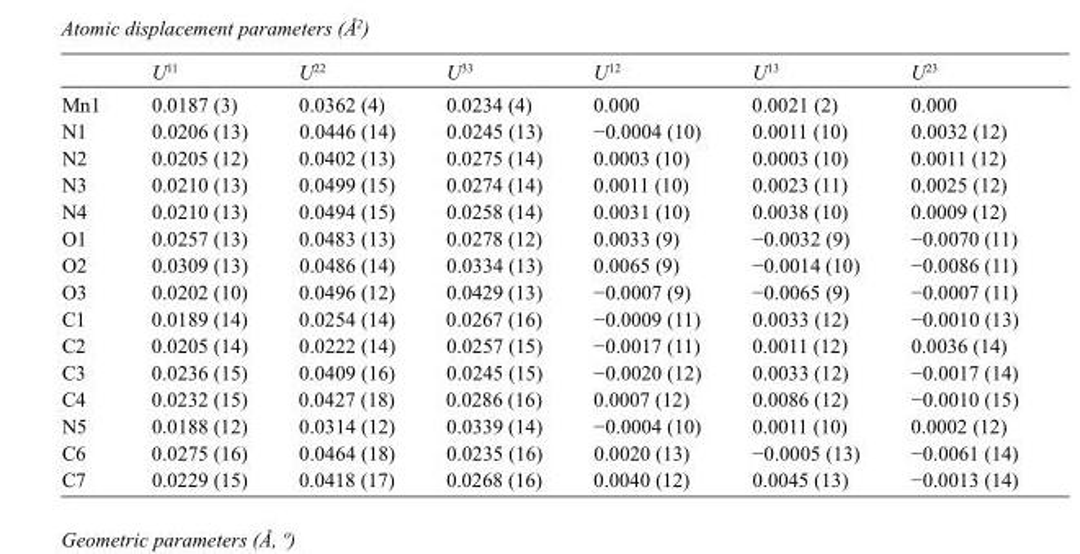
<table><thead><tr><td></td><td>U<sup>11</sup></td><td>U<sup>22</sup></td><td>U<sup>33</sup></td><td>U<sup>12</sup></td><td>U<sup>13</sup></td><td>U<sup>23</sup></td></tr></thead><tbody><tr><td>Mn1</td><td>0.0187 (3)</td><td>0.0362 (4)</td><td>0.0234 (4)</td><td>0.000</td><td>0.0021 (2)</td><td>0.000</td></tr><tr><td>N1</td><td>0.0206 (13)</td><td>0.0446 (14)</td><td>0.0245 (13)</td><td>−0.0004 (10)</td><td>0.0011 (10)</td><td>0.0032 (12)</td></tr><tr><td>N2</td><td>0.0205 (12)</td><td>0.0402 (13)</td><td>0.0275 (14)</td><td>0.0003 (10)</td><td>0.0003 (10)</td><td>0.0011 (12)</td></tr><tr><td>N3</td><td>0.0210 (13)</td><td>0.0499 (15)</td><td>0.0274 (14)</td><td>0.0011 (10)</td><td>0.0023 (11)</td><td>0.0025 (12)</td></tr><tr><td>N4</td><td>0.0210 (13)</td><td>0.0494 (15)</td><td>0.0258 (14)</td><td>0.0031 (10)</td><td>0.0038 (10)</td><td>0.0009 (12)</td></tr><tr><td>O1</td><td>0.0257 (13)</td><td>0.0483 (13)</td><td>0.0278 (12)</td><td>0.0033 (9)</td><td>−0.0032 (9)</td><td>−0.0070 (11)</td></tr><tr><td>O2</td><td>0.0309 (13)</td><td>0.0486 (14)</td><td>0.0334 (13)</td><td>0.0065 (9)</td><td>−0.0014 (10)</td><td>−0.0086 (11)</td></tr><tr><td>O3</td><td>0.0202 (10)</td><td>0.0496 (12)</td><td>0.0429 (13)</td><td>−0.0007 (9)</td><td>−0.0065 (9)</td><td>−0.0007 (11)</td></tr><tr><td>C1</td><td>0.0189 (14)</td><td>0.0254 (14)</td><td>0.0267 (16)</td><td>−0.0009 (11)</td><td>0.0033 (12)</td><td>−0.0010 (13)</td></tr><tr><td>C2</td><td>0.0205 (14)</td><td>0.0222 (14)</td><td>0.0257 (15)</td><td>−0.0017 (11)</td><td>0.0011 (12)</td><td>0.0036 (14)</td></tr><tr><td>C3</td><td>0.0236 (15)</td><td>0.0409 (16)</td><td>0.0245 (15)</td><td>−0.0020 (12)</td><td>0.0033 (12)</td><td>−0.0017 (14)</td></tr><tr><td>C4</td><td>0.0232 (15)</td><td>0.0427 (18)</td><td>0.0286 (16)</td><td>0.0007 (12)</td><td>0.0086 (12)</td><td>−0.0010 (15)</td></tr><tr><td>N5</td><td>0.0188 (12)</td><td>0.0314 (12)</td><td>0.0339 (14)</td><td>−0.0004 (10)</td><td>0.0011 (10)</td><td>0.0002 (12)</td></tr><tr><td>C6</td><td>0.0275 (16)</td><td>0.0464 (18)</td><td>0.0235 (16)</td><td>0.0020 (13)</td><td>−0.0005 (13)</td><td>−0.0061 (14)</td></tr><tr><td>C7</td><td>0.0229 (15)</td><td>0.0418 (17)</td><td>0.0268 (16)</td><td>0.0040 (12)</td><td>0.0045 (13)</td><td>−0.0013 (14)</td></tr></tbody></table>